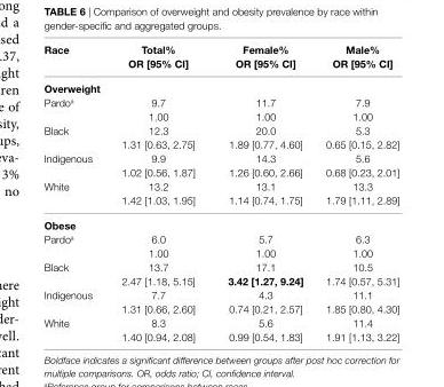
<table><thead><tr><td>race</td><td>Total% Or [95% ci]</td><td>Female% Or [95% ci]</td><td>Male% Or [95% ci]</td></tr></thead><tbody><tr><td colspan="4">Overweight</td></tr><tr><td>Pardo<sup>a</sup></td><td>9.7 1.00</td><td>11.7 1.00</td><td>7.9 1.00</td></tr><tr><td>Black</td><td>12.3 1.31 [0.63, 2.75]</td><td>20.0 1.89 [0.77, 4.60]</td><td>5.3 0.65 [0.15, 2.82]</td></tr><tr><td>Indigenous</td><td>9.9 1.02 [0.56, 1.87]</td><td>14.3 1.26 [0.60, 2.66]</td><td>5.6 0.68 [0.23, 2.01]</td></tr><tr><td>White</td><td>13.2 1.42 [1.03, 1.95]</td><td>13.1 1.14 [0.74, 1.75]</td><td>13.3 1.79 [1.11, 2.89]</td></tr><tr><td colspan="4">Obese</td></tr><tr><td>Pardo<sup>a</sup></td><td>6.0 1.00</td><td>5.7 1.00</td><td>6.3 1.00</td></tr><tr><td>Black</td><td>13.7 2.47 [1.18, 5.15]</td><td>17.1 3.42 [1.27, 9.24]</td><td>10.5 1.74 [0.57, 5.31]</td></tr><tr><td>Indigenous</td><td>7.7 1.31 [0.66, 2.60]</td><td>4.3 0.74 [0.21, 2.57]</td><td>11.1 1.85 [0.80, 4.30]</td></tr><tr><td>White</td><td>8.3 1.40 [0.94, 2.08]</td><td>5.6 0.99 [0.54, 1.83]</td><td>11.4 1.91 [1.13, 3.22]</td></tr></tbody></table>